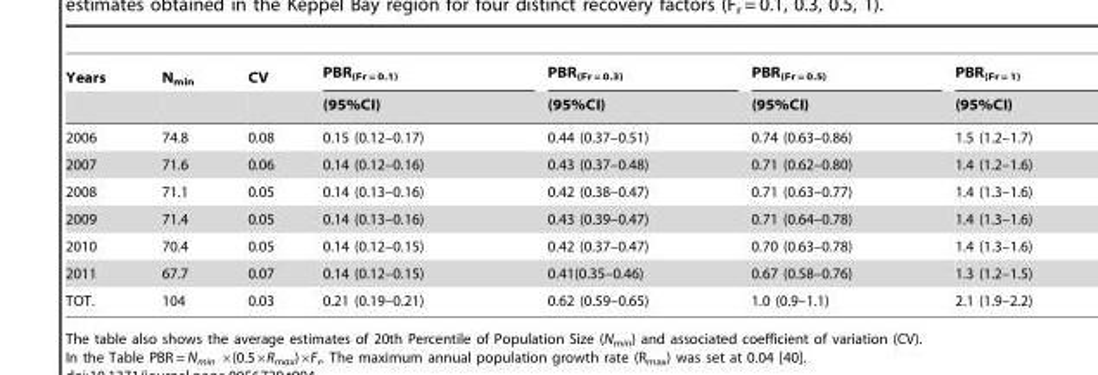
<table><thead><tr><td rowspan="2">Years</td><td rowspan="2">N<sub>min</sub></td><td rowspan="2">CV</td><td rowspan="2">PBR<sub>(Fr = 0.1)</sub> (95%CI)</td><td rowspan="2">PBR<sub>(Fr = 0.3)</sub> (95%CI)</td><td rowspan="2">PBR<sub>(Fr = 0.5)</sub> (95%CI)</td><td rowspan="2">PBR<sub>(Fr = 1)</sub> (95%CI)</td></tr><tr></tr></thead><tbody><tr><td>2006</td><td>74.8</td><td>0.08</td><td>0.15 (0.12–0.17)</td><td>0.44 (0.37–0.51)</td><td>0.74 (0.63–0.86)</td><td>1.5 (1.2–1.7)</td></tr><tr><td>2007</td><td>71.6</td><td>0.06</td><td>0.14 (0.12–0.16)</td><td>0.43 (0.37–0.48)</td><td>0.71 (0.62–0.80)</td><td>1.4 (1.2–1.6)</td></tr><tr><td>2008</td><td>71.1</td><td>0.05</td><td>0.14 (0.13–0.16)</td><td>0.42 (0.38–0.47)</td><td>0.71 (0.63–0.77)</td><td>1.4 (1.3–1.6)</td></tr><tr><td>2009</td><td>71.4</td><td>0.05</td><td>0.14 (0.13–0.16)</td><td>0.43 (0.39–0.47)</td><td>0.71 (0.64–0.78)</td><td>1.4 (1.3–1.6)</td></tr><tr><td>2010</td><td>70.4</td><td>0.05</td><td>0.14 (0.12–0.15)</td><td>0.42 (0.37–0.47)</td><td>0.70 (0.63–0.78)</td><td>1.4 (1.3–1.6)</td></tr><tr><td>2011</td><td>67.7</td><td>0.07</td><td>0.14 (0.12–0.15)</td><td>0.41(0.35–0.46)</td><td>0.67 (0.58–0.76)</td><td>1.3 (1.2–1.5)</td></tr><tr><td>TOT.</td><td>104</td><td>0.03</td><td>0.21 (0.19–0.21)</td><td>0.62 (0.59–0.65)</td><td>1.0 (0.9–1.1)</td><td>2.1 (1.9–2.2)</td></tr></tbody></table>